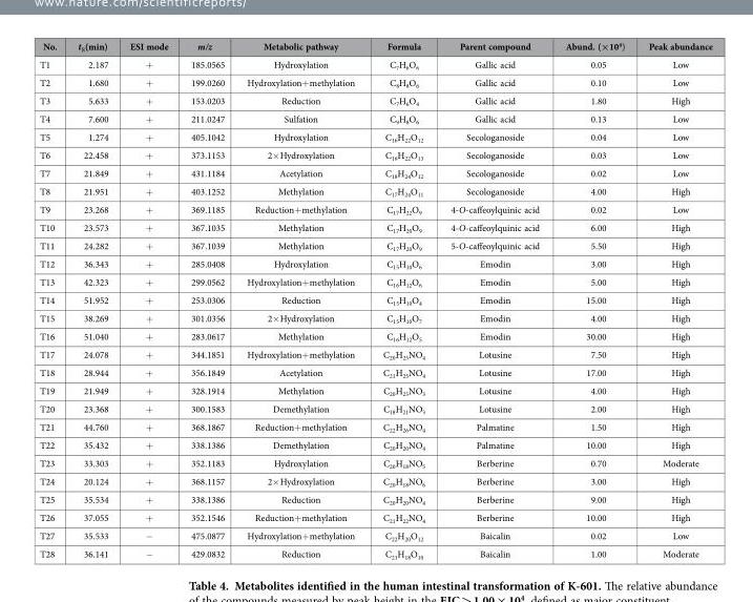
<table><tbody><tr><td>No.</td><td>t<sub>R</sub>(min)</td><td>ESI mode</td><td>m/z</td><td>Metabolic pathway</td><td>Formula</td><td>Parent compound</td><td>Abund. (×10<sup>4</sup>)</td><td>Peak abundance</td></tr><tr><td>T1</td><td>2.187</td><td>+</td><td>185.0565</td><td>Hydroxylation</td><td>C<sub>7</sub>H<sub>6</sub>O<sub>6</sub></td><td>Gallic acid</td><td>0.05</td><td>Low</td></tr><tr><td>T2</td><td>1.680</td><td>+</td><td>199.0260</td><td>Hydroxylation+ methylation</td><td>C<sub>8</sub>H<sub>8</sub>O<sub>6</sub></td><td>Gallic acid</td><td>0.10</td><td>Low</td></tr><tr><td>T3</td><td>5.633</td><td>+</td><td>153.0203</td><td>Reduction</td><td>C<sub>7</sub>H<sub>6</sub>O<sub>4</sub></td><td>Gallic acid</td><td>1.80</td><td>High</td></tr><tr><td>T4</td><td>7.600</td><td>+</td><td>211.0247</td><td>Sulfation</td><td>C<sub>9</sub>H<sub>8</sub>O<sub>6</sub></td><td>Gallic acid</td><td>0.13</td><td>Low</td></tr><tr><td>T5</td><td>1.274</td><td>+</td><td>405.1042</td><td>Hydroxylation</td><td>C<sub>16</sub>H<sub>22</sub>O<sub>12</sub></td><td>Secologanoside</td><td>0.04</td><td>Low</td></tr><tr><td>T6</td><td>22.458</td><td>+</td><td>373.1153</td><td>2× Hydroxylation</td><td>C<sub>16</sub>H<sub>22</sub>O<sub>13</sub></td><td>Secologanoside</td><td>0.03</td><td>Low</td></tr><tr><td>T7</td><td>21.849</td><td>+</td><td>431.1184</td><td>Acetylation</td><td>C<sub>18</sub>H<sub>24</sub>O<sub>12</sub></td><td>Secologanoside</td><td>0.02</td><td>Low</td></tr><tr><td>T8</td><td>21.951</td><td>+</td><td>403.1252</td><td>Methylation</td><td>C<sub>17</sub>H<sub>24</sub>O<sub>11</sub></td><td>Secologanoside</td><td>4.00</td><td>High</td></tr><tr><td>T9</td><td>23.268</td><td>+</td><td>369.1185</td><td>Reduction+ methylation</td><td>C<sub>17</sub>H<sub>22</sub>O<sub>9</sub></td><td>4-O-caffeoylquinic acid</td><td>0.02</td><td>Low</td></tr><tr><td>T10</td><td>23.573</td><td>+</td><td>367.1035</td><td>Methylation</td><td>C<sub>17</sub>H<sub>20</sub>O<sub>9</sub></td><td>4-O-caffeoylquinic acid</td><td>6.00</td><td>High</td></tr><tr><td>T11</td><td>24.282</td><td>+</td><td>367.1039</td><td>Methylation</td><td>C<sub>17</sub>H<sub>20</sub>O<sub>9</sub></td><td>5-O-caffeoylquinic acid</td><td>5.50</td><td>High</td></tr><tr><td>T12</td><td>36.343</td><td>+</td><td>285.0408</td><td>Hydroxylation</td><td>C<sub>15</sub>H<sub>10</sub>O<sub>6</sub></td><td>Emodin</td><td>3.00</td><td>High</td></tr><tr><td>T13</td><td>42.323</td><td>+</td><td>299.0562</td><td>Hydroxylation+ methylation</td><td>C<sub>16</sub>H<sub>12</sub>O<sub>6</sub></td><td>Emodin</td><td>5.00</td><td>High</td></tr><tr><td>T14</td><td>51.952</td><td>+</td><td>253.0306</td><td>Reduction</td><td>C<sub>15</sub>H<sub>10</sub>O<sub>4</sub></td><td>Emodin</td><td>15.00</td><td>High</td></tr><tr><td>T15</td><td>38.269</td><td>+</td><td>301.0356</td><td>2× Hydroxylation</td><td>C<sub>15</sub>H<sub>10</sub>O<sub>7</sub></td><td>Emodin</td><td>4.00</td><td>High</td></tr><tr><td>T16</td><td>51.040</td><td>+</td><td>283.0617</td><td>Methylation</td><td>C<sub>16</sub>H<sub>12</sub>O<sub>5</sub></td><td>Emodin</td><td>30.00</td><td>High</td></tr><tr><td>T17</td><td>24.078</td><td>+</td><td>344.1851</td><td>Hydroxylation+ methylation</td><td>C<sub>20</sub>H<sub>25</sub>NO<sub>4</sub></td><td>Lotusine</td><td>7.50</td><td>High</td></tr><tr><td>T18</td><td>28.944</td><td>+</td><td>356.1849</td><td>Acetylation</td><td>C<sub>21</sub>H<sub>25</sub>NO<sub>4</sub></td><td>Lotusine</td><td>17.00</td><td>High</td></tr><tr><td>T19</td><td>21.949</td><td>+</td><td>328.1914</td><td>Methylation</td><td>C<sub>20</sub>H<sub>25</sub>NO<sub>3</sub></td><td>Lotusine</td><td>4.00</td><td>High</td></tr><tr><td>T20</td><td>23.368</td><td>+</td><td>300.1583</td><td>Demethylation</td><td>C<sub>18</sub>H<sub>21</sub>NO<sub>3</sub></td><td>Lotusine</td><td>2.00</td><td>High</td></tr><tr><td>T21</td><td>44.760</td><td>+</td><td>368.1867</td><td>Reduction+ methylation</td><td>C<sub>22</sub>H<sub>26</sub>NO<sub>4</sub></td><td>Palmatine</td><td>1.50</td><td>High</td></tr><tr><td>T22</td><td>35.432</td><td>+</td><td>338.1386</td><td>Demethylation</td><td>C<sub>20</sub>H<sub>20</sub>NO<sub>4</sub></td><td>Palmatine</td><td>10.00</td><td>High</td></tr><tr><td>T23</td><td>33.303</td><td>+</td><td>352.1183</td><td>Hydroxylation</td><td>C<sub>20</sub>H<sub>18</sub>NO<sub>5</sub></td><td>Berberine</td><td>0.70</td><td>Moderate</td></tr><tr><td>T24</td><td>20.124</td><td>+</td><td>368.1157</td><td>2× Hydroxylation</td><td>C<sub>20</sub>H<sub>18</sub>NO<sub>6</sub></td><td>Berberine</td><td>3.00</td><td>High</td></tr><tr><td>T25</td><td>35.534</td><td>+</td><td>338.1386</td><td>Reduction</td><td>C<sub>20</sub>H<sub>20</sub>NO<sub>4</sub></td><td>Berberine</td><td>9.00</td><td>High</td></tr><tr><td>T26</td><td>37.055</td><td>+</td><td>352.1546</td><td>Reduction+ methylation</td><td>C<sub>21</sub>H<sub>22</sub>NO<sub>4</sub></td><td>Berberine</td><td>10.00</td><td>High</td></tr><tr><td>T27</td><td>35.533</td><td>−</td><td>475.0877</td><td>Hydroxylation+ methylation</td><td>C<sub>22</sub>H<sub>20</sub>O<sub>12</sub></td><td>Baicalin</td><td>0.02</td><td>Low</td></tr><tr><td>T28</td><td>36.141</td><td>−</td><td>429.0832</td><td>Reduction</td><td>C<sub>21</sub>H<sub>18</sub>O<sub>10</sub></td><td>Baicalin</td><td>1.00</td><td>Moderate</td></tr></tbody></table>